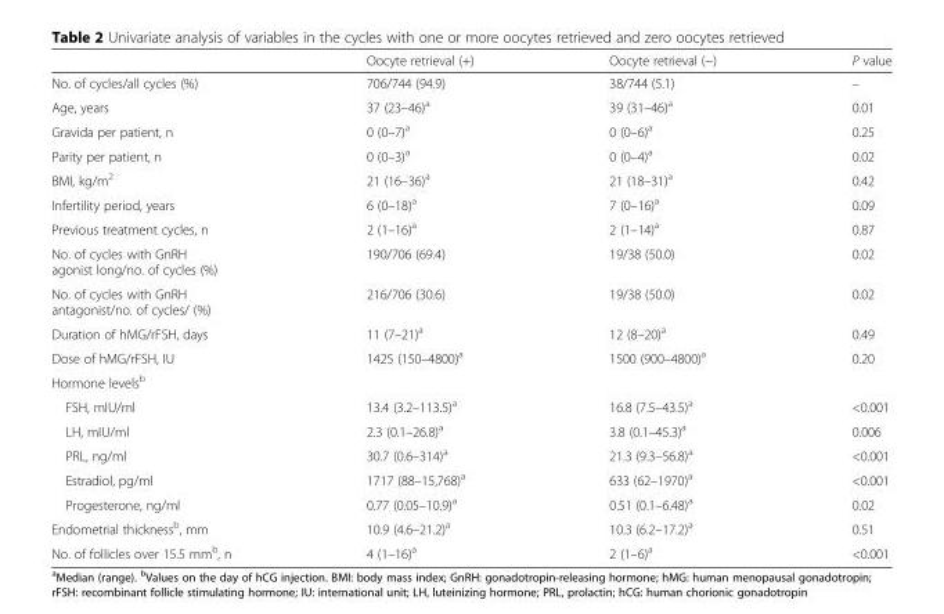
<table><thead><tr><td></td><td>Oocyte retrieval (+)</td><td>Oocyte retrieval (−)</td><td>P value</td></tr></thead><tbody><tr><td>No. of cycles/all cycles (%)</td><td>706/744 (94.9)</td><td>38/744 (5.1)</td><td>–</td></tr><tr><td>Age, years</td><td>37 (23–46)<sup>a</sup></td><td>39 (31–46)<sup>a</sup></td><td>0.01</td></tr><tr><td>Gravida per patient, n</td><td>0 (0–7)<sup>a</sup></td><td>0 (0–6)<sup>a</sup></td><td>0.25</td></tr><tr><td>Parity per patient, n</td><td>0 (0–3)<sup>a</sup></td><td>0 (0–4)<sup>a</sup></td><td>0.02</td></tr><tr><td>BMI, kg/m<sup>2</sup></td><td>21 (16–36)<sup>a</sup></td><td>21 (18–31)<sup>a</sup></td><td>0.42</td></tr><tr><td>Infertility period, years</td><td>6 (0–18)<sup>a</sup></td><td>7 (0–16)<sup>a</sup></td><td>0.09</td></tr><tr><td>Previous treatment cycles, n</td><td>2 (1–16)<sup>a</sup></td><td>2 (1–14)<sup>a</sup></td><td>0.87</td></tr><tr><td>No. of cycles with GnRH agonist long/no. of cycles (%)</td><td>190/706 (69.4)</td><td>19/38 (50.0)</td><td>0.02</td></tr><tr><td>No. of cycles with GnRH antagonist/no. of cycles/ (%)</td><td>216/706 (30.6)</td><td>19/38 (50.0)</td><td>0.02</td></tr><tr><td>Duration of hMG/rFSH, days</td><td>11 (7–21)<sup>a</sup></td><td>12 (8–20)<sup>a</sup></td><td>0.49</td></tr><tr><td>Dose of hMG/rFSH, IU</td><td>1425 (150–4800)<sup>a</sup></td><td>1500 (900–4800)<sup>a</sup></td><td>0.20</td></tr><tr><td colspan="4">Hormone levels<sup>b</sup></td></tr><tr><td>FSH, mIU/ml</td><td>13.4 (3.2–113.5)<sup>a</sup></td><td>16.8 (7.5–43.5)<sup>a</sup></td><td>&lt;0.001</td></tr><tr><td>LH, mIU/ml</td><td>2.3 (0.1–26.8)<sup>a</sup></td><td>3.8 (0.1–45.3)<sup>a</sup></td><td>0.006</td></tr><tr><td>PRL, ng/ml</td><td>30.7 (0.6–314)<sup>a</sup></td><td>21.3 (9.3–56.8)<sup>a</sup></td><td>&lt;0.001</td></tr><tr><td>Estradiol, pg/ml</td><td>1717 (88–15,768)<sup>a</sup></td><td>633 (62–1970)<sup>a</sup></td><td>&lt;0.001</td></tr><tr><td>Progesterone, ng/ml</td><td>0.77 (0.05–10.9)<sup>a</sup></td><td>0.51 (0.1–6.48)<sup>a</sup></td><td>0.02</td></tr><tr><td>Endometrial thickness<sup>b</sup>, mm</td><td>10.9 (4.6–21.2)<sup>a</sup></td><td>10.3 (6.2–17.2)<sup>a</sup></td><td>0.51</td></tr><tr><td>No. of follicles over 15.5 mm<sup>b</sup>, n</td><td>4 (1–16)<sup>a</sup></td><td>2 (1–6)<sup>a</sup></td><td>&lt;0.001</td></tr></tbody></table>